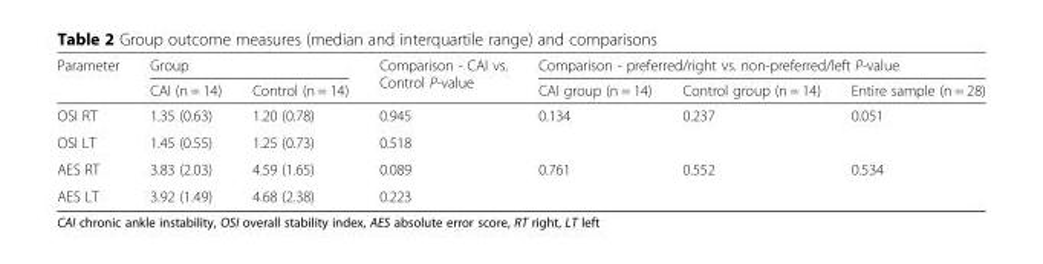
<table><thead><tr><td rowspan="2">Parameter</td><td colspan="2">Group</td><td rowspan="2">Comparison - CAI vs. Control P-value</td><td colspan="3">Comparison - preferred/right vs. non-preferred/left P-value</td></tr><tr><td>CAI (n = 14)</td><td>Control (n = 14)</td><td>CAI group (n = 14)</td><td>Control group (n = 14)</td><td>Entire sample (n = 28)</td></tr></thead><tbody><tr><td>OSI RT</td><td>1.35 (0.63)</td><td>1.20 (0.78)</td><td>0.945</td><td rowspan="2">0.134</td><td rowspan="2">0.237</td><td rowspan="2">0.051</td></tr><tr><td>OSI LT</td><td>1.45 (0.55)</td><td>1.25 (0.73)</td><td>0.518</td></tr><tr><td>AES RT</td><td>3.83 (2.03)</td><td>4.59 (1.65)</td><td>0.089</td><td rowspan="2">0.761</td><td rowspan="2">0.552</td><td rowspan="2">0.534</td></tr><tr><td>AES LT</td><td>3.92 (1.49)</td><td>4.68 (2.38)</td><td>0.223</td></tr></tbody></table>